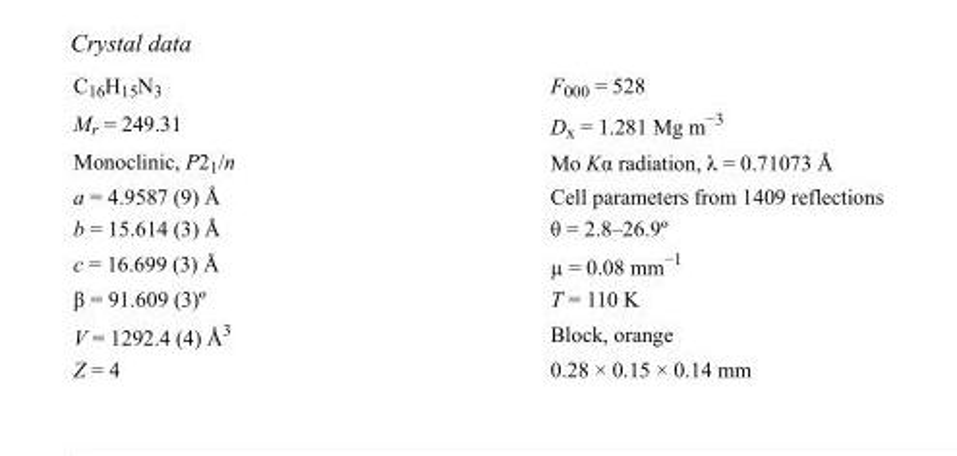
<table><tbody><tr><td>C<sub>16</sub>H<sub>15</sub>N<sub>3</sub></td><td>F000 = 528</td></tr><tr><td>M<sub>r</sub> = 249.31</td><td>D<sub>x</sub> = 1.281 Mg m<sup>−3</sup></td></tr><tr><td>Monoclinic, P2<sub>1</sub>/n</td><td>Mo Kα radiation, λ = 0.71073 Å</td></tr><tr><td>a = 4.9587 (9) Å</td><td>Cell parameters from 1409 reflections</td></tr><tr><td>b = 15.614 (3) Å</td><td>θ = 2.8–26.9º</td></tr><tr><td>c = 16.699 (3) Å</td><td>µ = 0.08 mm<sup>−1</sup></td></tr><tr><td>β = 91.609 (3)º</td><td>T = 110 K</td></tr><tr><td>V = 1292.4 (4) Å<sup>3</sup></td><td>Block, orange</td></tr><tr><td>Z = 4</td><td>0.28 × 0.15 × 0.14 mm</td></tr></tbody></table>